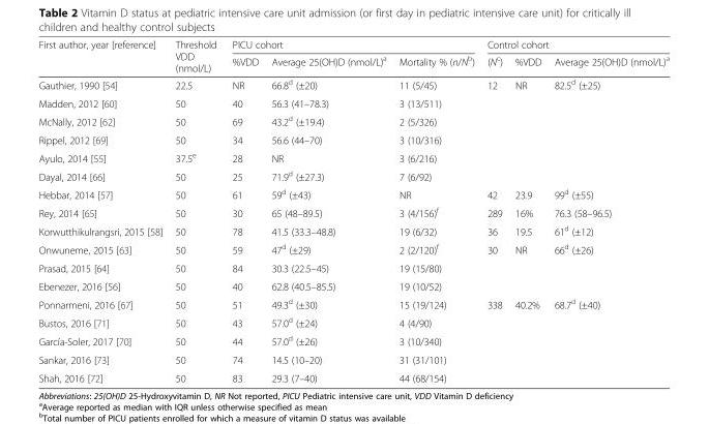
<table><thead><tr><td rowspan="2">First author, year [reference]</td><td rowspan="2">Threshold VDD (nmol/L)</td><td colspan="3">PICU cohort</td><td colspan="3">Control cohort</td></tr><tr><td>%VDD</td><td>Average 25(OH)D (nmol/L)<sup>a</sup></td><td>Mortality % (n/N<sup>b</sup>)</td><td>(N<sup>c</sup>)</td><td>%VDD</td><td>Average 25(OH)D (nmol/L)<sup>a</sup></td></tr></thead><tbody><tr><td>Gauthier, 1990 [54]</td><td>22.5</td><td>NR</td><td>66.8<sup>d</sup> (±20)</td><td>11 (5/45)</td><td>12</td><td>NR</td><td>82.5<sup>d</sup> (±25)</td></tr><tr><td>Madden, 2012 [60]</td><td>50</td><td>40</td><td>56.3 (41–78.3)</td><td>3 (13/511)</td><td></td><td></td><td rowspan="5"></td></tr><tr><td>McNally, 2012 [62]</td><td>50</td><td>69</td><td>43.2<sup>d</sup> (±19.4)</td><td>2 (5/326)</td><td></td><td></td></tr><tr><td>Rippel, 2012 [69]</td><td>50</td><td>34</td><td>56.6 (44–70)</td><td>3 (10/316)</td><td></td><td></td></tr><tr><td>Ayulo, 2014 [55]</td><td>37.5<sup>e</sup></td><td>28</td><td>NR</td><td>3 (6/216)</td><td></td><td></td></tr><tr><td>Dayal, 2014 [66]</td><td>50</td><td>25</td><td>71.9<sup>d</sup> (±27.3)</td><td>7 (6/92)</td><td></td><td></td></tr><tr><td>Hebbar, 2014 [57]</td><td>50</td><td>61</td><td>59<sup>d</sup> (±43)</td><td>NR</td><td>42</td><td>23.9</td><td>99<sup>d</sup> (±55)</td></tr><tr><td>Rey, 2014 [65]</td><td>50</td><td>30</td><td>65 (48–89.5)</td><td>3 (4/156)<sup>f</sup></td><td>289</td><td>16%</td><td>76.3 (58–96.5)</td></tr><tr><td>Korwutthikulrangsri, 2015 [58]</td><td>50</td><td>78</td><td>41.5 (33.3–48.8)</td><td>19 (6/32)</td><td>36</td><td>19.5</td><td>61<sup>d</sup> (±12)</td></tr><tr><td>Onwuneme, 2015 [63]</td><td>50</td><td>59</td><td>47<sup>d</sup> (±29)</td><td>2 (2/120)<sup>f</sup></td><td>30</td><td>NR</td><td>66<sup>d</sup> (±26)</td></tr><tr><td>Prasad, 2015 [64]</td><td>50</td><td>84</td><td>30.3 (22.5–45)</td><td>19 (15/80)</td><td></td><td></td><td rowspan="2"></td></tr><tr><td>Ebenezer, 2016 [56]</td><td>50</td><td>40</td><td>62.8 (40.5–85.5)</td><td>19 (10/52)</td><td></td><td></td></tr><tr><td>Ponnarmeni, 2016 [67]</td><td>50</td><td>51</td><td>49.3<sup>d</sup> (±30)</td><td>15 (19/124)</td><td>338</td><td>40.2%</td><td>68.7<sup>d</sup> (±40)</td></tr><tr><td>Bustos, 2016 [71]</td><td>50</td><td>43</td><td>57.0<sup>d</sup> (±24)</td><td>4 (4/90)</td><td></td><td></td><td rowspan="4"></td></tr><tr><td>García-Soler, 2017 [70]</td><td>50</td><td>44</td><td>57.0<sup>d</sup> (±26)</td><td>3 (10/340)</td><td></td><td></td></tr><tr><td>Sankar, 2016 [73]</td><td>50</td><td>74</td><td>14.5 (10–20)</td><td>31 (31/101)</td><td></td><td></td></tr><tr><td>Shah, 2016 [72]</td><td>50</td><td>83</td><td>29.3 (7–40)</td><td>44 (68/154)</td><td></td><td></td></tr></tbody></table>